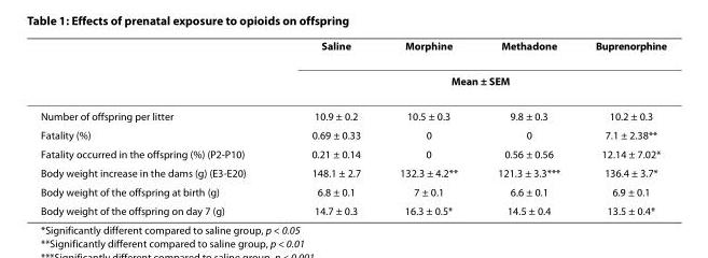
<table><thead><tr><td rowspan="2"></td><td rowspan="2">Saline</td><td>Morphine</td><td>Methadone</td><td rowspan="2">Buprenorphine</td></tr><tr><td colspan="2">Mean ± SEM</td></tr></thead><tbody><tr><td>Number of offspring per litter</td><td>10.9 ± 0.2</td><td>10.5 ± 0.3</td><td>9.8 ± 0.3</td><td>10.2 ± 0.3</td></tr><tr><td>Fatality (%)</td><td>0.69 ± 0.33</td><td>0</td><td>0</td><td>7.1 ± 2.38**</td></tr><tr><td>Fatality occurred in the offspring (%) (P2-P10)</td><td>0.21 ± 0.14</td><td>0</td><td>0.56 ± 0.56</td><td>12.14 ± 7.02*</td></tr><tr><td>Body weight increase in the dams (g) (E3-E20)</td><td>148.1 ± 2.7</td><td>132.3 ± 4.2**</td><td>121.3 ± 3.3***</td><td>136.4 ± 3.7*</td></tr><tr><td>Body weight of the offspring at birth (g)</td><td>6.8 ± 0.1</td><td>7 ± 0.1</td><td>6.6 ± 0.1</td><td>6.9 ± 0.1</td></tr><tr><td>Body weight of the offspring on day 7 (g)</td><td>14.7 ± 0.3</td><td>16.3 ± 0.5*</td><td>14.5 ± 0.4</td><td>13.5 ± 0.4*</td></tr></tbody></table>